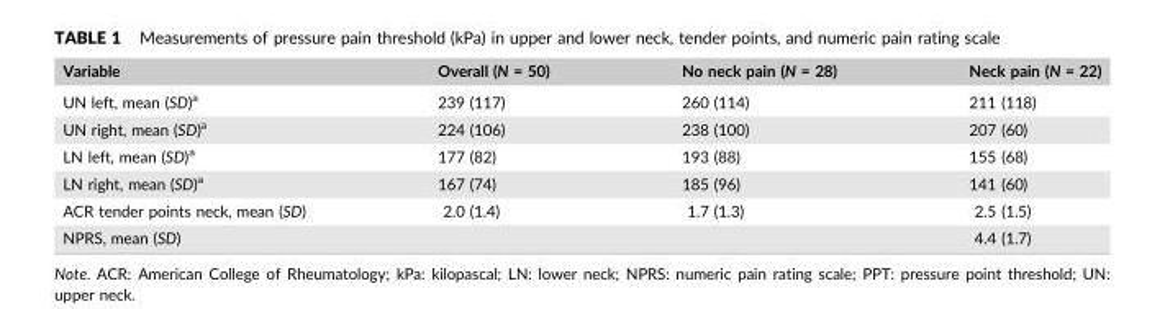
<table><thead><tr><td>Variable</td><td>Overall (N = 50)</td><td>No neck pain (N = 28)</td><td>Neck pain (N = 22)</td></tr></thead><tbody><tr><td>UN left, mean (SD)<sup>a</sup></td><td>239 (117)</td><td>260 (114)</td><td>211 (118)</td></tr><tr><td>UN right, mean (SD)<sup>a</sup></td><td>224 (106)</td><td>238 (100)</td><td>207 (60)</td></tr><tr><td>LN left, mean (SD)<sup>a</sup></td><td>177 (82)</td><td>193 (88)</td><td>155 (68)</td></tr><tr><td>LN right, mean (SD)<sup>a</sup></td><td>167 (74)</td><td>185 (96)</td><td>141 (60)</td></tr><tr><td>ACR tender points neck, mean (SD)</td><td>2.0 (1.4)</td><td>1.7 (1.3)</td><td>2.5 (1.5)</td></tr><tr><td>NPRS, mean (SD)</td><td></td><td></td><td>4.4 (1.7)</td></tr></tbody></table>